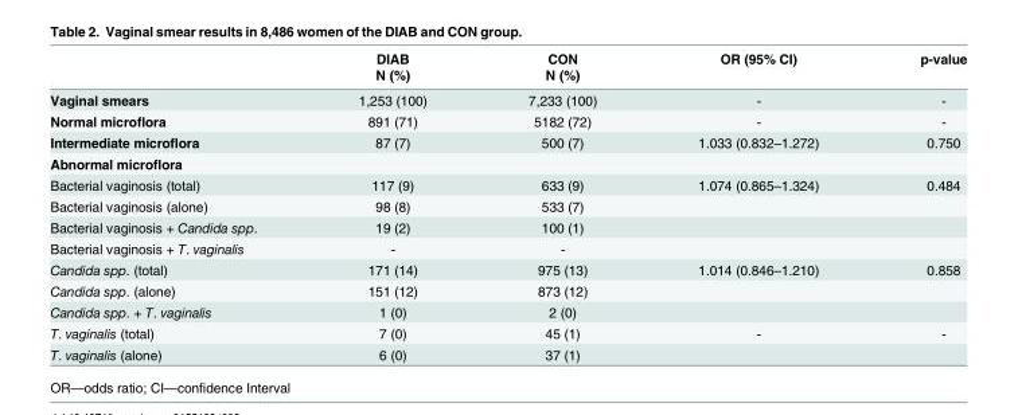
<table><thead><tr><td rowspan="2"></td><td rowspan="2">DIAB N (%)</td><td rowspan="2">CON N (%)</td><td rowspan="2">OR (95% CI)</td><td rowspan="2">p-value</td></tr><tr></tr></thead><tbody><tr><td>Vaginal smears</td><td>1,253 (100)</td><td>7,233 (100)</td><td>-</td><td>-</td></tr><tr><td>Normal microflora</td><td>891 (71)</td><td>5182 (72)</td><td>-</td><td>-</td></tr><tr><td>Intermediate microflora</td><td>87 (7)</td><td>500 (7)</td><td>1.033 (0.832–1.272)</td><td>0.750</td></tr><tr><td colspan="5">Abnormal microflora</td></tr><tr><td>Bacterial vaginosis (total)</td><td>117 (9)</td><td>633 (9)</td><td>1.074 (0.865–1.324)</td><td>0.484</td></tr><tr><td>Bacterial vaginosis (alone)</td><td>98 (8)</td><td>533 (7)</td><td></td><td></td></tr><tr><td>Bacterial vaginosis + Candida spp.</td><td>19 (2)</td><td>100 (1)</td><td></td><td></td></tr><tr><td>Bacterial vaginosis + T. vaginalis</td><td>-</td><td>-</td><td></td><td></td></tr><tr><td>Candida spp. (total)</td><td>171 (14)</td><td>975 (13)</td><td>1.014 (0.846–1.210)</td><td>0.858</td></tr><tr><td>Candida spp. (alone)</td><td>151 (12)</td><td>873 (12)</td><td></td><td></td></tr><tr><td>Candida spp. + T. vaginalis</td><td>1 (0)</td><td>2 (0)</td><td></td><td></td></tr><tr><td>T. vaginalis (total)</td><td>7 (0)</td><td>45 (1)</td><td>-</td><td>-</td></tr><tr><td>T. vaginalis (alone)</td><td>6 (0)</td><td>37 (1)</td><td></td><td></td></tr></tbody></table>